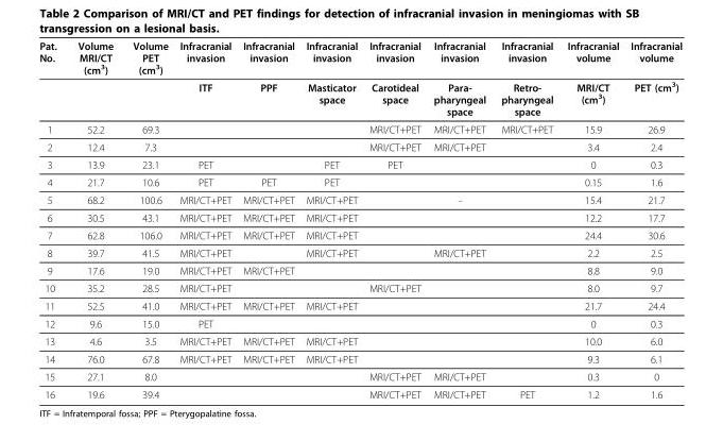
<table><thead><tr><td>Pat. No.</td><td>Volume MRI/CT (cm<sup>3</sup>)</td><td>Volume PET (cm<sup>3</sup>)</td><td>Infracranial invasion</td><td>Infracranial invasion</td><td>Infracranial invasion</td><td>Infracranial invasion</td><td>Infracranial invasion</td><td>Infracranial invasion</td><td>Infracranial volume</td><td>Infracranial volume</td></tr></thead><tbody><tr><td></td><td></td><td></td><td>ITF</td><td>PPF</td><td>Masticator space</td><td>Carotideal space</td><td>Para- pharyngeal space</td><td>Retro- pharyngeal space</td><td>MRI/CT (cm<sup>3</sup>)</td><td>PET (cm<sup>3</sup>)</td></tr><tr><td>1</td><td>52.2</td><td>69.3</td><td></td><td></td><td></td><td>MRI/CT+PET</td><td>MRI/CT+PET</td><td>MRI/CT+PET</td><td>15.9</td><td>26.9</td></tr><tr><td>2</td><td>12.4</td><td>7.3</td><td></td><td></td><td></td><td>MRI/CT+PET</td><td>MRI/CT+PET</td><td></td><td>3.4</td><td>2.4</td></tr><tr><td>3</td><td>13.9</td><td>23.1</td><td>PET</td><td></td><td>PET</td><td>PET</td><td></td><td></td><td>0</td><td>0.3</td></tr><tr><td>4</td><td>21.7</td><td>10.6</td><td>PET</td><td>PET</td><td>PET</td><td></td><td></td><td></td><td>0.15</td><td>1.6</td></tr><tr><td>5</td><td>68.2</td><td>100.6</td><td>MRI/CT+PET</td><td>MRI/CT+PET</td><td>MRI/CT+PET</td><td></td><td>-</td><td></td><td>15.4</td><td>21.7</td></tr><tr><td>6</td><td>30.5</td><td>43.1</td><td>MRI/CT+PET</td><td>MRI/CT+PET</td><td>MRI/CT+PET</td><td></td><td></td><td></td><td>12.2</td><td>17.7</td></tr><tr><td>7</td><td>62.8</td><td>106.0</td><td>MRI/CT+PET</td><td>MRI/CT+PET</td><td>MRI/CT+PET</td><td></td><td></td><td></td><td>24.4</td><td>30.6</td></tr><tr><td>8</td><td>39.7</td><td>41.5</td><td>MRI/CT+PET</td><td></td><td>MRI/CT+PET</td><td></td><td>MRI/CT+PET</td><td></td><td>2.2</td><td>2.5</td></tr><tr><td>9</td><td>17.6</td><td>19.0</td><td>MRI/CT+PET</td><td>MRI/CT+PET</td><td></td><td></td><td></td><td></td><td>8.8</td><td>9.0</td></tr><tr><td>10</td><td>35.2</td><td>28.5</td><td>MRI/CT+PET</td><td></td><td></td><td>MRI/CT+PET</td><td></td><td></td><td>8.0</td><td>9.7</td></tr><tr><td>11</td><td>52.5</td><td>41.0</td><td>MRI/CT+PET</td><td>MRI/CT+PET</td><td>MRI/CT+PET</td><td></td><td></td><td></td><td>21.7</td><td>24.4</td></tr><tr><td>12</td><td>9.6</td><td>15.0</td><td>PET</td><td></td><td></td><td></td><td></td><td></td><td>0</td><td>0.3</td></tr><tr><td>13</td><td>4.6</td><td>3.5</td><td>MRI/CT+PET</td><td>MRI/CT+PET</td><td>MRI/CT+PET</td><td></td><td></td><td></td><td>10.0</td><td>6.0</td></tr><tr><td>14</td><td>76.0</td><td>67.8</td><td>MRI/CT+PET</td><td>MRI/CT+PET</td><td>MRI/CT+PET</td><td></td><td></td><td></td><td>9.3</td><td>6.1</td></tr><tr><td>15</td><td>27.1</td><td>8.0</td><td></td><td></td><td></td><td>MRI/CT+PET</td><td>MRI/CT+PET</td><td></td><td>0.3</td><td>0</td></tr><tr><td>16</td><td>19.6</td><td>39.4</td><td></td><td></td><td></td><td>MRI/CT+PET</td><td>MRI/CT+PET</td><td>PET</td><td>1.2</td><td>1.6</td></tr></tbody></table>